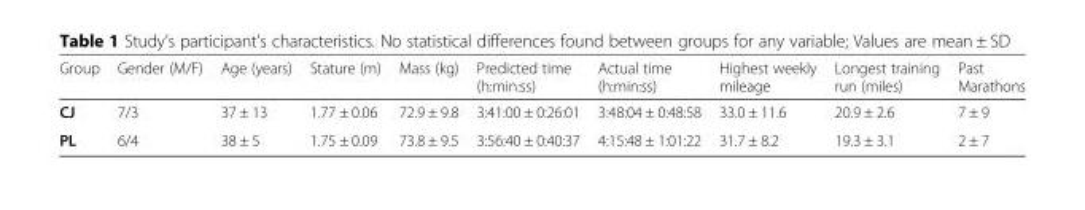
<table><thead><tr><td>Group</td><td>Gender (M/F)</td><td>Age (years)</td><td>Stature (m)</td><td>Mass (kg)</td><td>Predicted time (h:min:ss)</td><td>Actual time (h:min:ss)</td><td>Highest weekly mileage</td><td>Longest training run (miles)</td><td>Past Marathons</td></tr></thead><tbody><tr><td>CJ</td><td>7/3</td><td>37 ± 13</td><td>1.77 ± 0.06</td><td>72.9 ± 9.8</td><td>3:41:00 ± 0:26:01</td><td>3:48:04 ± 0:48:58</td><td>33.0 ± 11.6</td><td>20.9 ± 2.6</td><td>7 ± 9</td></tr><tr><td>PL</td><td>6/4</td><td>38 ± 5</td><td>1.75 ± 0.09</td><td>73.8 ± 9.5</td><td>3:56:40 ± 0:40:37</td><td>4:15:48 ± 1:01:22</td><td>31.7 ± 8.2</td><td>19.3 ± 3.1</td><td>2 ± 7</td></tr></tbody></table>